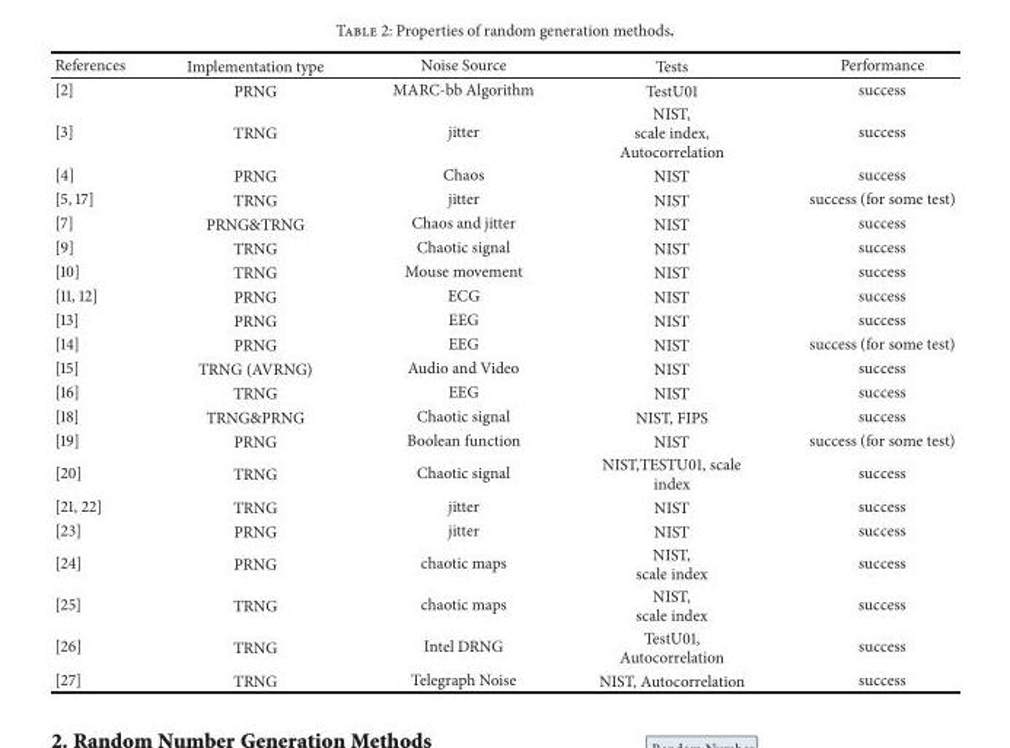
<table><thead><tr><td>References</td><td>Implementation type</td><td>Noise Source</td><td>Tests</td><td>Performance</td></tr></thead><tbody><tr><td>[2]</td><td>PRNG</td><td>MARC-bb Algorithm</td><td>TestU01</td><td>success</td></tr><tr><td>[3]</td><td>TRNG</td><td>jitter</td><td>NIST, scale index, Autocorrelation</td><td>success</td></tr><tr><td>[4]</td><td>PRNG</td><td>Chaos</td><td>NIST</td><td>success</td></tr><tr><td>[5, 17]</td><td>TRNG</td><td>jitter</td><td>NIST</td><td>success (for some test)</td></tr><tr><td>[7]</td><td>PRNG&amp;TRNG</td><td>Chaos and jitter</td><td>NIST</td><td>success</td></tr><tr><td>[9]</td><td>TRNG</td><td>Chaotic signal</td><td>NIST</td><td>success</td></tr><tr><td>[10]</td><td>TRNG</td><td>Mouse movement</td><td>NIST</td><td>success</td></tr><tr><td>[11, 12]</td><td>PRNG</td><td>ECG</td><td>NIST</td><td>success</td></tr><tr><td>[13]</td><td>PRNG</td><td>EEG</td><td>NIST</td><td>success</td></tr><tr><td>[14]</td><td>PRNG</td><td>EEG</td><td>NIST</td><td>success (for some test)</td></tr><tr><td>[15]</td><td>TRNG (AVRNG)</td><td>Audio and Video</td><td>NIST</td><td>success</td></tr><tr><td>[16]</td><td>TRNG</td><td>EEG</td><td>NIST</td><td>success</td></tr><tr><td>[18]</td><td>TRNG&amp;PRNG</td><td>Chaotic signal</td><td>NIST, FIPS</td><td>success</td></tr><tr><td>[19]</td><td>PRNG</td><td>Boolean function</td><td>NIST</td><td>success (for some test)</td></tr><tr><td>[20]</td><td>TRNG</td><td>Chaotic signal</td><td>NIST,TESTU01, scale index</td><td>success</td></tr><tr><td>[21, 22]</td><td>TRNG</td><td>jitter</td><td>NIST</td><td>success</td></tr><tr><td>[23]</td><td>PRNG</td><td>jitter</td><td>NIST</td><td>success</td></tr><tr><td>[24]</td><td>PRNG</td><td>chaotic maps</td><td>NIST, scale index</td><td>success</td></tr><tr><td>[25]</td><td>TRNG</td><td>chaotic maps</td><td>NIST, scale index</td><td>success</td></tr><tr><td>[26]</td><td>TRNG</td><td>Intel DRNG</td><td>TestU01, Autocorrelation</td><td>success</td></tr><tr><td>[27]</td><td>TRNG</td><td>Telegraph Noise</td><td>NIST, Autocorrelation</td><td>success</td></tr></tbody></table>